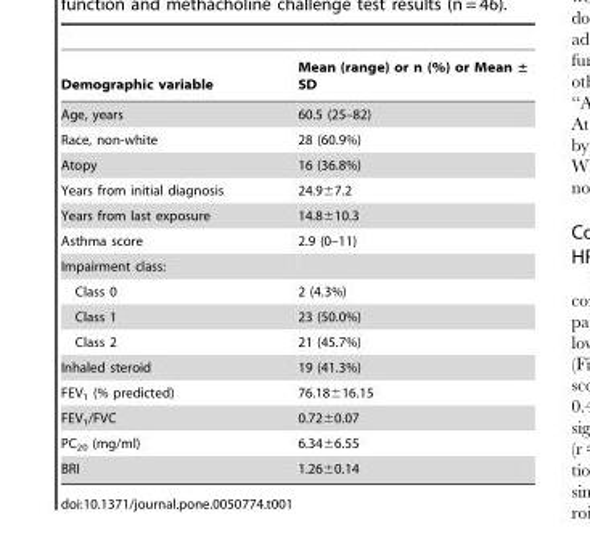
<table><thead><tr><td>Demographic variable</td><td>Mean (range) or n (%) or Mean ± SD</td></tr></thead><tbody><tr><td>Age, years</td><td>60.5 (25–82)</td></tr><tr><td>Race, non-white</td><td>28 (60.9%)</td></tr><tr><td>Atopy</td><td>16 (36.8%)</td></tr><tr><td>Years from initial diagnosis</td><td>24.9±7.2</td></tr><tr><td>Years from last exposure</td><td>14.8±10.3</td></tr><tr><td>Asthma score</td><td>2.9 (0–11)</td></tr><tr><td colspan="2">Impairment class:</td></tr><tr><td>Class 0</td><td>2 (4.3%)</td></tr><tr><td>Class 1</td><td>23 (50.0%)</td></tr><tr><td>Class 2</td><td>21 (45.7%)</td></tr><tr><td>Inhaled steroid</td><td>19 (41.3%)</td></tr><tr><td>FEV<sub>1</sub> (% predicted)</td><td>76.18±16.15</td></tr><tr><td>FEV<sub>1</sub>/FVC</td><td>0.72±0.07</td></tr><tr><td>PC<sub>20</sub> (mg/ml)</td><td>6.34±6.55</td></tr><tr><td>BRI</td><td>1.26±0.14</td></tr></tbody></table>